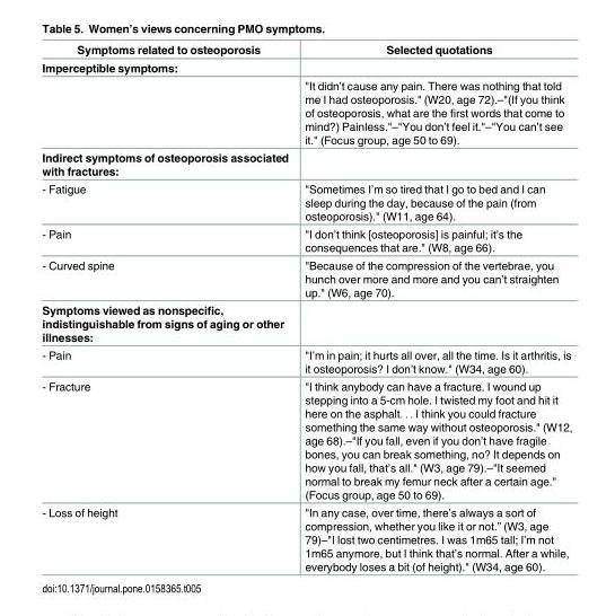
<table><thead><tr><td>Symptoms related to osteoporosis</td><td>Selected quotations</td></tr></thead><tbody><tr><td colspan="2">Imperceptible symptoms:</td></tr><tr><td></td><td>&quot;It didn’t cause any pain. There was nothing that told me I had osteoporosis.&quot; (W20, age 72).–&quot;(If you think of osteoporosis, what are the first words that come to mind?) Painless.&quot;–&quot;You don’t feel it.&quot;–&quot;You can’t see it.&quot; (Focus group, age 50 to 69).</td></tr><tr><td colspan="2">Indirect symptoms of osteoporosis associated with fractures:</td></tr><tr><td>- Fatigue</td><td>&quot;Sometimes I’m so tired that I go to bed and I can sleep during the day, because of the pain (from osteoporosis).&quot; (W11, age 64).</td></tr><tr><td>- Pain</td><td>&quot;I don’t think [osteoporosis] is painful; it’s the consequences that are.&quot; (W8, age 66).</td></tr><tr><td>- Curved spine</td><td>&quot;Because of the compression of the vertebrae, you hunch over more and more and you can’t straighten up.&quot; (W6, age 70).</td></tr><tr><td colspan="2">Symptoms viewed as nonspecific, indistinguishable from signs of aging or other illnesses:</td></tr><tr><td>- Pain</td><td>&quot;I’m in pain; it hurts all over, all the time. Is it arthritis, is it osteoporosis? I don’t know.&quot; (W34, age 60).</td></tr><tr><td>- Fracture</td><td>&quot;I think anybody can have a fracture. I wound up stepping into a 5-cm hole. I twisted my foot and hit it here on the asphalt. . . I think you could fracture something the same way without osteoporosis.&quot; (W12, age 68).–&quot;If you fall, even if you don’t have fragile bones, you can break something, no? It depends on how you fall, that’s all.&quot; (W3, age 79).–&quot;It seemed normal to break my femur neck after a certain age.&quot; (Focus group, age 50 to 69).</td></tr><tr><td>- Loss of height</td><td>&quot;In any case, over time, there’s always a sort of compression, whether you like it or not.” (W3, age 79)–&quot;I lost two centimetres. I was 1m65 tall; I’m not 1m65 anymore, but I think that’s normal. After a while, everybody loses a bit (of height).&quot; (W34, age 60).</td></tr></tbody></table>